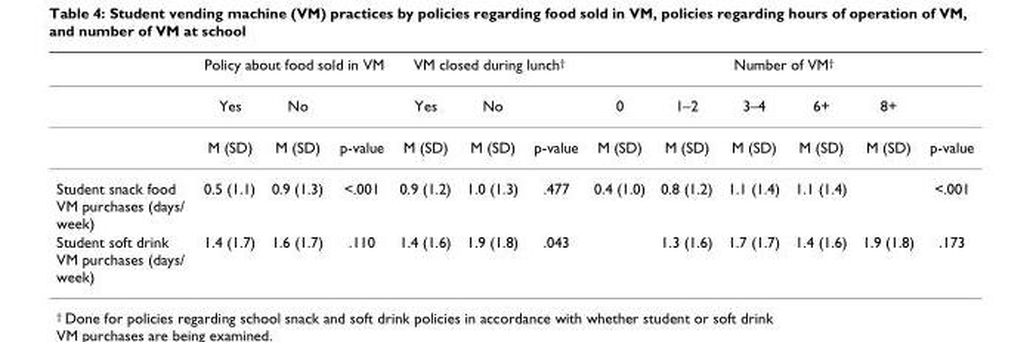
<table><thead><tr><td rowspan="2"></td><td colspan="3">Policy about food sold in VM</td><td colspan="3">VM closed during lunch<sup>†</sup></td><td colspan="6">Number of VM<sup>†</sup></td></tr><tr><td>Yes</td><td>No</td><td></td><td>Yes</td><td>No</td><td></td><td>0</td><td>1–2</td><td>3–4</td><td>6+</td><td>8+</td><td></td></tr></thead><tbody><tr><td></td><td>M (SD)</td><td>M (SD)</td><td>p-value</td><td>M (SD)</td><td>M (SD)</td><td>p-value</td><td>M (SD)</td><td>M (SD)</td><td>M (SD)</td><td>M (SD)</td><td>M (SD)</td><td>p-value</td></tr><tr><td>Student snack food VM purchases (days/ week)</td><td>0.5 (1.1)</td><td>0.9 (1.3)</td><td>&lt;.001</td><td>0.9 (1.2)</td><td>1.0 (1.3)</td><td>.477</td><td>0.4 (1.0)</td><td>0.8 (1.2)</td><td>1.1 (1.4)</td><td>1.1 (1.4)</td><td></td><td>&lt;.001</td></tr><tr><td>Student soft drink VM purchases (days/ week)</td><td>1.4 (1.7)</td><td>1.6 (1.7)</td><td>.110</td><td>1.4 (1.6)</td><td>1.9 (1.8)</td><td>.043</td><td></td><td>1.3 (1.6)</td><td>1.7 (1.7)</td><td>1.4 (1.6)</td><td>1.9 (1.8)</td><td>.173</td></tr></tbody></table>